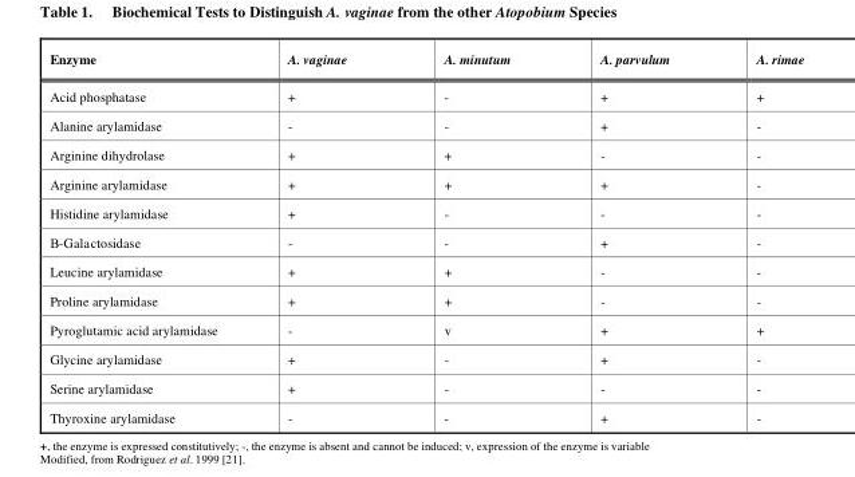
<table><thead><tr><td>Enzyme</td><td>A. vaginae</td><td>A. minutum</td><td>A. parvulum</td><td>A. rimae</td></tr></thead><tbody><tr><td>Acid phosphatase</td><td>+</td><td>-</td><td>+</td><td>+</td></tr><tr><td>Alanine arylamidase</td><td>-</td><td>-</td><td>+</td><td>-</td></tr><tr><td>Arginine dihydrolase</td><td>+</td><td>+</td><td>-</td><td>-</td></tr><tr><td>Arginine arylamidase</td><td>+</td><td>+</td><td>+</td><td>-</td></tr><tr><td>Histidine arylamidase</td><td>+</td><td>-</td><td>-</td><td>-</td></tr><tr><td>B-Galactosidase</td><td>-</td><td>-</td><td>+</td><td>-</td></tr><tr><td>Leucine arylamidase</td><td>+</td><td>+</td><td>-</td><td>-</td></tr><tr><td>Proline arylamidase</td><td>+</td><td>+</td><td>-</td><td>-</td></tr><tr><td>Pyroglutamic acid arylamidase</td><td>-</td><td>v</td><td>+</td><td>+</td></tr><tr><td>Glycine arylamidase</td><td>+</td><td>-</td><td>+</td><td>-</td></tr><tr><td>Serine arylamidase</td><td>+</td><td>-</td><td>-</td><td>-</td></tr><tr><td>Thyroxine arylamidase</td><td>-</td><td>-</td><td>+</td><td>-</td></tr></tbody></table>